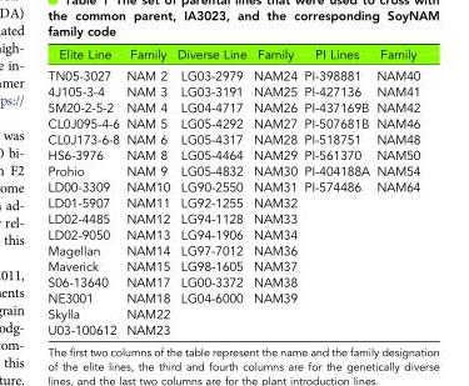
<table><thead><tr><td>Elite Line</td><td>Family</td><td>Diverse Line</td><td>Family</td><td>PI Lines</td><td>Family</td></tr></thead><tbody><tr><td>TN05-3027</td><td>NAM 2</td><td>LG03-2979</td><td>NAM24</td><td>PI-398881</td><td>NAM40</td></tr><tr><td>4J105-3-4</td><td>NAM 3</td><td>LG03-3191</td><td>NAM25</td><td>PI-427136</td><td>NAM41</td></tr><tr><td>5M20-2-5-2</td><td>NAM 4</td><td>LG04-4717</td><td>NAM26</td><td>PI-437169B</td><td>NAM42</td></tr><tr><td>CL0J095-4-6</td><td>NAM 5</td><td>LG05-4292</td><td>NAM27</td><td>PI-507681B</td><td>NAM46</td></tr><tr><td>CL0J173-6-8</td><td>NAM 6</td><td>LG05-4317</td><td>NAM28</td><td>PI-518751</td><td>NAM48</td></tr><tr><td>HS6-3976</td><td>NAM 8</td><td>LG05-4464</td><td>NAM29</td><td>PI-561370</td><td>NAM50</td></tr><tr><td>Prohio</td><td>NAM 9</td><td>LG05-4832</td><td>NAM30</td><td>PI-404188A</td><td>NAM54</td></tr><tr><td>LD00-3309</td><td>NAM10</td><td>LG90-2550</td><td>NAM31</td><td>PI-574486</td><td>NAM64</td></tr><tr><td>LD01-5907</td><td>NAM11</td><td>LG92-1255</td><td>NAM32</td><td></td><td></td></tr><tr><td>LD02-4485</td><td>NAM12</td><td>LG94-1128</td><td>NAM33</td><td></td><td></td></tr><tr><td>LD02-9050</td><td>NAM13</td><td>LG94-1906</td><td>NAM34</td><td></td><td></td></tr><tr><td>Magellan</td><td>NAM14</td><td>LG97-7012</td><td>NAM36</td><td></td><td></td></tr><tr><td>Maverick</td><td>NAM15</td><td>LG98-1605</td><td>NAM37</td><td></td><td></td></tr><tr><td>S06-13640</td><td>NAM17</td><td>LG00-3372</td><td>NAM38</td><td></td><td></td></tr><tr><td>NE3001</td><td>NAM18</td><td>LG04-6000</td><td>NAM39</td><td></td><td></td></tr><tr><td>Skylla</td><td>NAM22</td><td></td><td></td><td></td><td></td></tr><tr><td>U03-100612</td><td>NAM23</td><td></td><td></td><td></td><td></td></tr></tbody></table>